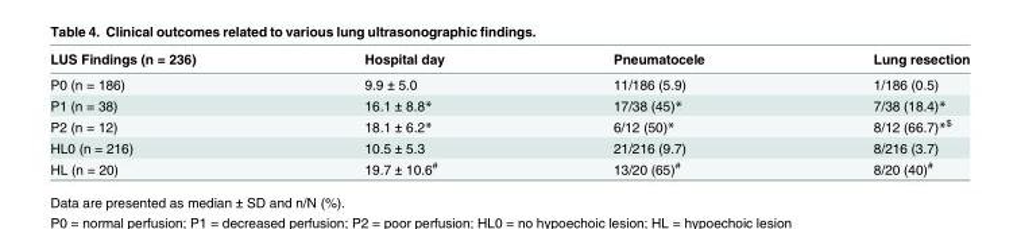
<table><thead><tr><td>LUS Findings (n = 236)</td><td>Hospital day</td><td>Pneumatocele</td><td>Lung resection</td></tr></thead><tbody><tr><td>P0 (n = 186)</td><td>9.9 ± 5.0</td><td>11/186 (5.9)</td><td>1/186 (0.5)</td></tr><tr><td>P1 (n = 38)</td><td>16.1 ± 8.8*</td><td>17/38 (45)*</td><td>7/38 (18.4)*</td></tr><tr><td>P2 (n = 12)</td><td>18.1 ± 6.2*</td><td>6/12 (50)*</td><td>8/12 (66.7)*<sup>$</sup></td></tr><tr><td>HL0 (n = 216)</td><td>10.5 ± 5.3</td><td>21/216 (9.7)</td><td>8/216 (3.7)</td></tr><tr><td>HL (n = 20)</td><td>19.7 ± 10.6<sup>#</sup></td><td>13/20 (65)<sup>#</sup></td><td>8/20 (40)<sup>#</sup></td></tr></tbody></table>